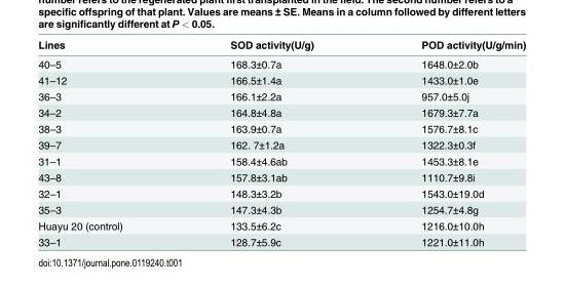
<table><thead><tr><td>Lines</td><td>SOD activity(U/g)</td><td>POD activity(U/g/min)</td></tr></thead><tbody><tr><td>40–5</td><td>168.3±0.7a</td><td>1648.0±2.0b</td></tr><tr><td>41–12</td><td>166.5±1.4a</td><td>1433.0±1.0e</td></tr><tr><td>36–3</td><td>166.1±2.2a</td><td>957.0±5.0j</td></tr><tr><td>34–2</td><td>164.8±4.8a</td><td>1679.3±7.7a</td></tr><tr><td>38–3</td><td>163.9±0.7a</td><td>1576.7±8.1c</td></tr><tr><td>39–7</td><td>162. 7±1.2a</td><td>1322.3±0.3f</td></tr><tr><td>31–1</td><td>158.4±4.6ab</td><td>1453.3±8.1e</td></tr><tr><td>43–8</td><td>157.8±3.1ab</td><td>1110.7±9.8i</td></tr><tr><td>32–1</td><td>148.3±3.2b</td><td>1543.0±19.0d</td></tr><tr><td>35–3</td><td>147.3±4.3b</td><td>1254.7±4.8g</td></tr><tr><td>Huayu 20 (control)</td><td>133.5±6.2c</td><td>1216.0±10.0h</td></tr><tr><td>33–1</td><td>128.7±5.9c</td><td>1221.0±11.0h</td></tr></tbody></table>